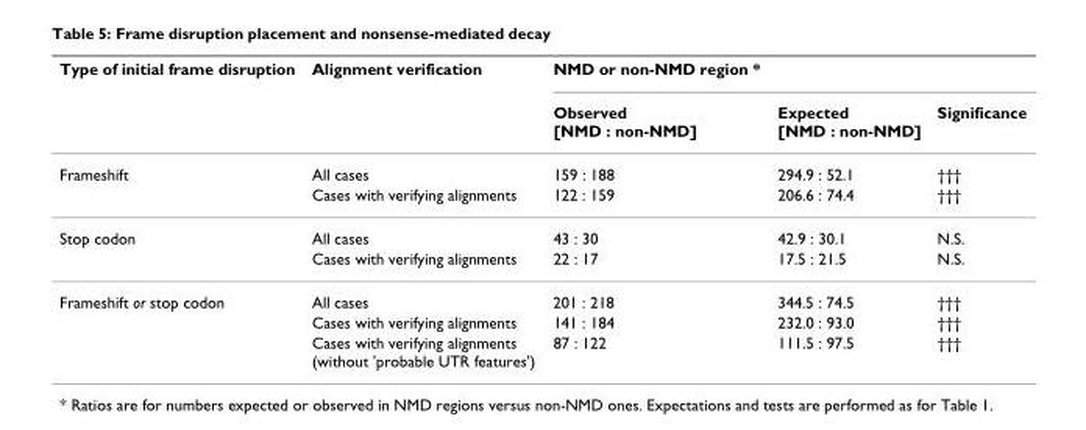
<table><thead><tr><td rowspan="2">Type of initial frame disruption</td><td rowspan="2">Alignment verification</td><td rowspan="2">NMD or non-NMD region * Observed [NMD : non-NMD]</td><td rowspan="2">Expected [NMD : non-NMD]</td><td rowspan="2">Significance</td></tr><tr></tr></thead><tbody><tr><td rowspan="2">Frameshift</td><td>All cases</td><td>159 : 188</td><td>294.9 : 52.1</td><td>†††</td></tr><tr><td>Cases with verifying alignments</td><td>122 : 159</td><td>206.6 : 74.4</td><td>†††</td></tr><tr><td rowspan="2">Stop codon</td><td>All cases</td><td>43 : 30</td><td>42.9 : 30.1</td><td>N.S.</td></tr><tr><td>Cases with verifying alignments</td><td>22 : 17</td><td>17.5 : 21.5</td><td>N.S.</td></tr><tr><td rowspan="3">Frameshift or stop codon</td><td>All cases</td><td>201 : 218</td><td>344.5 : 74.5</td><td>†††</td></tr><tr><td>Cases with verifying alignments</td><td>141 : 184</td><td>232.0 : 93.0</td><td>†††</td></tr><tr><td>Cases with verifying alignments (without &#x27;probable UTR features&#x27;)</td><td>87 : 122</td><td>111.5 : 97.5</td><td>†††</td></tr></tbody></table>